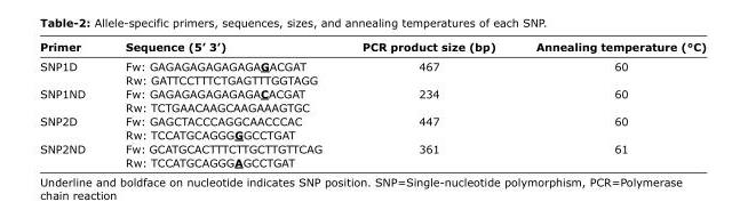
<table><thead><tr><td>Primer</td><td>Sequence (5’ 3’)</td><td>PCR product size (bp)</td><td>Annealing temperature (°C)</td></tr></thead><tbody><tr><td rowspan="2">SNP1D</td><td>Fw: GAGAGAGAGAGAGAGACGAT</td><td>467</td><td>60</td></tr><tr><td>Rw: GATTCCTTTCTGAGTTTGGTAGG</td><td></td><td></td></tr><tr><td rowspan="2">SNP1ND</td><td>Fw: GAGAGAGAGAGAGACACGAT</td><td>234</td><td>60</td></tr><tr><td>Rw: TCTGAACAAGCAAGAAAGTGC</td><td></td><td></td></tr><tr><td rowspan="2">SNP2D</td><td>Fw: GAGCTACCCAGGCAACCCAC</td><td>447</td><td>60</td></tr><tr><td>Rw: TCCATGCAGGGGGCCTGAT</td><td></td><td></td></tr><tr><td rowspan="2">SNP2ND</td><td>Fw: GCATGCACTTTCTTGCTTGTTCAG</td><td>361</td><td>61</td></tr><tr><td>Rw: TCCATGCAGGGAGCCTGAT</td><td></td><td></td></tr></tbody></table>